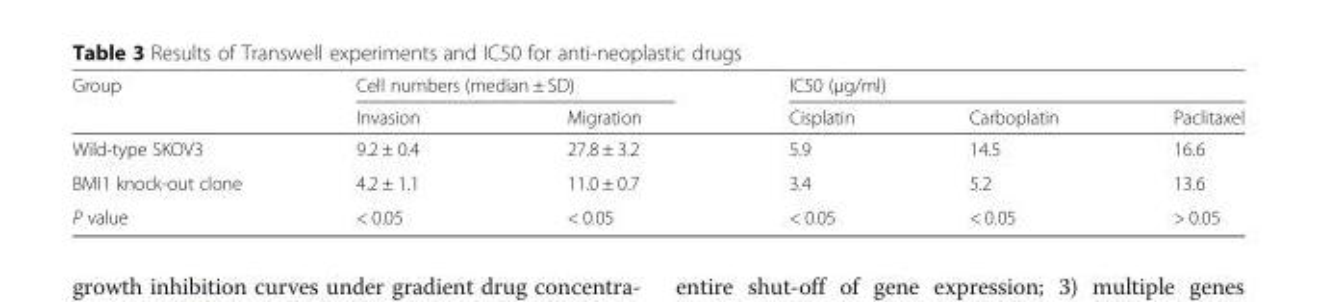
<table><thead><tr><td rowspan="2">Group</td><td colspan="2">Cell numbers (median ± SD)</td><td colspan="3">IC50 (μg/ml)</td></tr><tr><td>Invasion</td><td>Migration</td><td>Cisplatin</td><td>Carboplatin</td><td>Paclitaxel</td></tr></thead><tbody><tr><td>Wild-type SKOV3</td><td>9.2 ± 0.4</td><td>27.8 ± 3.2</td><td>5.9</td><td>14.5</td><td>16.6</td></tr><tr><td>BMI1 knock-out clone</td><td>4.2 ± 1.1</td><td>11.0 ± 0.7</td><td>3.4</td><td>5.2</td><td>13.6</td></tr><tr><td>P value</td><td>&lt; 0.05</td><td>&lt; 0.05</td><td>&lt; 0.05</td><td>&lt; 0.05</td><td>&gt; 0.05</td></tr></tbody></table>